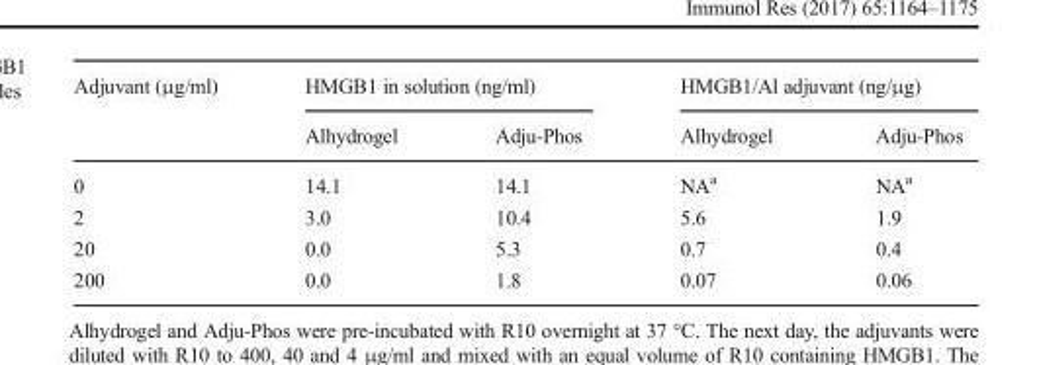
<table><thead><tr><td rowspan="2">Adjuvant (μg/ml)</td><td colspan="2">HMGB1 in solution (ng/ml)</td><td colspan="2">HMGB1/Al adjuvant (ng/μg)</td></tr><tr><td>Alhydrogel</td><td>Adju-Phos</td><td>Alhydrogel</td><td>Adju-Phos</td></tr></thead><tbody><tr><td>0</td><td>14.1</td><td>14.1</td><td>NA<sup>a</sup></td><td>NA<sup>a</sup></td></tr><tr><td>2</td><td>3.0</td><td>10.4</td><td>5.6</td><td>1.9</td></tr><tr><td>20</td><td>0.0</td><td>5.3</td><td>0.7</td><td>0.4</td></tr><tr><td>200</td><td>0.0</td><td>1.8</td><td>0.07</td><td>0.06</td></tr></tbody></table>